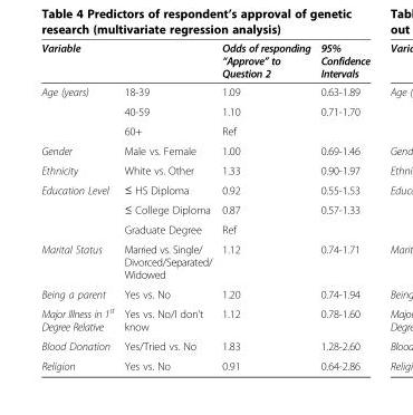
<table><thead><tr><td>Variable</td><td></td><td>Odds of responding “Approve” to Question 2</td><td>95% Confidence Intervals</td></tr></thead><tbody><tr><td rowspan="3">Age (years)</td><td>18-39</td><td>1.09</td><td>0.63-1.89</td></tr><tr><td>40-59</td><td>1.10</td><td>0.71-1.70</td></tr><tr><td>60+</td><td>Ref</td><td></td></tr><tr><td>Gender</td><td>Male vs. Female</td><td>1.00</td><td>0.69-1.46</td></tr><tr><td>Ethnicity</td><td>White vs. Other</td><td>1.33</td><td>0.90-1.97</td></tr><tr><td rowspan="3">Education Level</td><td>≤ HS Diploma</td><td>0.92</td><td>0.55-1.53</td></tr><tr><td>≤ College Diploma</td><td>0.87</td><td>0.57-1.33</td></tr><tr><td>Graduate Degree</td><td>Ref</td><td></td></tr><tr><td>Marital Status</td><td>Married vs. Single/ Divorced/Separated/ Widowed</td><td>1.12</td><td>0.74-1.71</td></tr><tr><td>Being a parent</td><td>Yes vs. No</td><td>1.20</td><td>0.74-1.94</td></tr><tr><td>Major Illness in 1<sup>st</sup> Degree Relative</td><td>Yes vs. No/I don’t know</td><td>1.12</td><td>0.78-1.60</td></tr><tr><td>Blood Donation</td><td>Yes/Tried vs. No</td><td>1.83</td><td>1.28-2.60</td></tr><tr><td>Religion</td><td>Yes vs. No</td><td>0.91</td><td>0.64-2.86</td></tr></tbody></table>